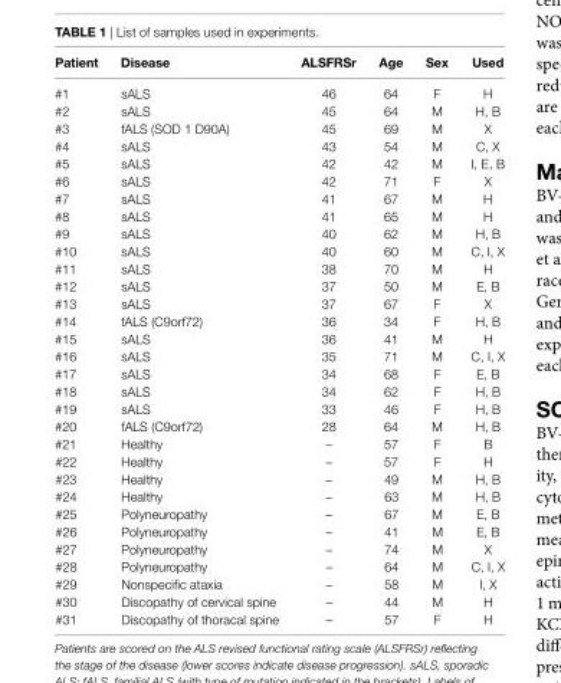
<table><thead><tr><td>Patient</td><td>Disease</td><td>alsFrsr</td><td>age</td><td>sex</td><td>Used</td></tr></thead><tbody><tr><td>#1</td><td>sALS</td><td>46</td><td>64</td><td>F</td><td>H</td></tr><tr><td>#2</td><td>sALS</td><td>45</td><td>64</td><td>M</td><td>H, B</td></tr><tr><td>#3</td><td>fALS (SOD 1 D90A)</td><td>45</td><td>69</td><td>M</td><td>X</td></tr><tr><td>#4</td><td>sALS</td><td>43</td><td>54</td><td>M</td><td>C, X</td></tr><tr><td>#5</td><td>sALS</td><td>42</td><td>42</td><td>M</td><td>I, E, B</td></tr><tr><td>#6</td><td>sALS</td><td>42</td><td>71</td><td>F</td><td>X</td></tr><tr><td>#7</td><td>sALS</td><td>41</td><td>67</td><td>M</td><td>H</td></tr><tr><td>#8</td><td>sALS</td><td>41</td><td>65</td><td>M</td><td>H</td></tr><tr><td>#9</td><td>sALS</td><td>40</td><td>62</td><td>M</td><td>H, B</td></tr><tr><td>#10</td><td>sALS</td><td>40</td><td>60</td><td>M</td><td>C, I, X</td></tr><tr><td>#11</td><td>sALS</td><td>38</td><td>70</td><td>M</td><td>H</td></tr><tr><td>#12</td><td>sALS</td><td>37</td><td>50</td><td>M</td><td>E, B</td></tr><tr><td>#13</td><td>sALS</td><td>37</td><td>67</td><td>F</td><td>X</td></tr><tr><td>#14</td><td>fALS (C9orf72)</td><td>36</td><td>34</td><td>F</td><td>H, B</td></tr><tr><td>#15</td><td>sALS</td><td>36</td><td>41</td><td>M</td><td>H</td></tr><tr><td>#16</td><td>sALS</td><td>35</td><td>71</td><td>M</td><td>C, I, X</td></tr><tr><td>#17</td><td>sALS</td><td>34</td><td>68</td><td>F</td><td>E, B</td></tr><tr><td>#18</td><td>sALS</td><td>34</td><td>62</td><td>F</td><td>H, B</td></tr><tr><td>#19</td><td>sALS</td><td>33</td><td>46</td><td>F</td><td>H, B</td></tr><tr><td>#20</td><td>fALS (C9orf72)</td><td>28</td><td>64</td><td>M</td><td>H, B</td></tr><tr><td>#21</td><td>Healthy</td><td>–</td><td>57</td><td>F</td><td>B</td></tr><tr><td>#22</td><td>Healthy</td><td>–</td><td>57</td><td>F</td><td>H</td></tr><tr><td>#23</td><td>Healthy</td><td>–</td><td>49</td><td>M</td><td>H, B</td></tr><tr><td>#24</td><td>Healthy</td><td>–</td><td>63</td><td>M</td><td>H, B</td></tr><tr><td>#25</td><td>Polyneuropathy</td><td>–</td><td>67</td><td>M</td><td>E, B</td></tr><tr><td>#26</td><td>Polyneuropathy</td><td>–</td><td>41</td><td>M</td><td>E, B</td></tr><tr><td>#27</td><td>Polyneuropathy</td><td>–</td><td>74</td><td>M</td><td>X</td></tr><tr><td>#28</td><td>Polyneuropathy</td><td>–</td><td>64</td><td>M</td><td>C, I, X</td></tr><tr><td>#29</td><td>Nonspecific ataxia</td><td>–</td><td>58</td><td>M</td><td>I, X</td></tr><tr><td>#30</td><td>Discopathy of cervical spine</td><td>–</td><td>44</td><td>M</td><td>H</td></tr><tr><td>#31</td><td>Discopathy of thoracal spine</td><td>–</td><td>57</td><td>F</td><td>H</td></tr></tbody></table>